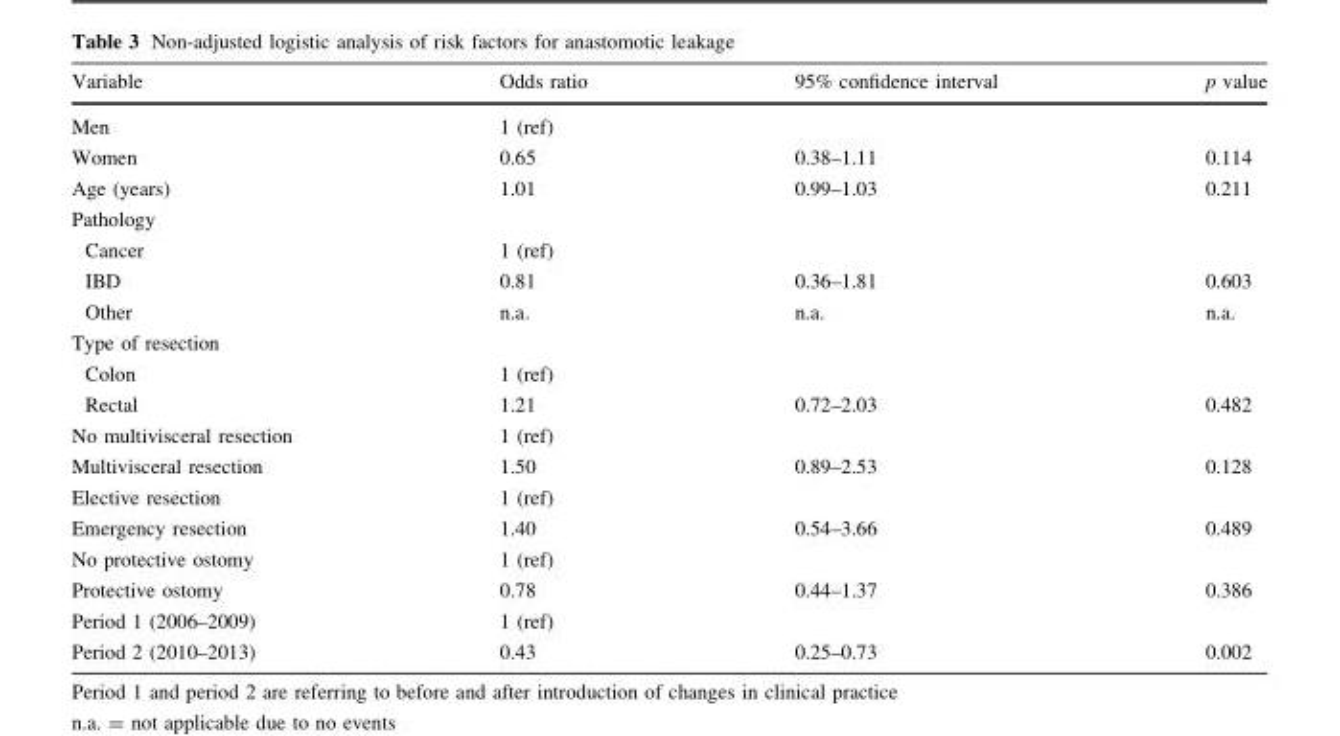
<table><thead><tr><td>Variable</td><td>Odds ratio</td><td>95% confidence interval</td><td>p value</td></tr></thead><tbody><tr><td>Men</td><td>1 (ref)</td><td></td><td></td></tr><tr><td>Women</td><td>0.65</td><td>0.38–1.11</td><td>0.114</td></tr><tr><td>Age (years)</td><td>1.01</td><td>0.99–1.03</td><td>0.211</td></tr><tr><td colspan="4">Pathology</td></tr><tr><td>Cancer</td><td>1 (ref)</td><td></td><td></td></tr><tr><td>IBD</td><td>0.81</td><td>0.36–1.81</td><td>0.603</td></tr><tr><td>Other</td><td>n.a.</td><td>n.a.</td><td>n.a.</td></tr><tr><td colspan="4">Type of resection</td></tr><tr><td>Colon</td><td>1 (ref)</td><td></td><td></td></tr><tr><td>Rectal</td><td>1.21</td><td>0.72–2.03</td><td>0.482</td></tr><tr><td>No multivisceral resection</td><td>1 (ref)</td><td></td><td></td></tr><tr><td>Multivisceral resection</td><td>1.50</td><td>0.89–2.53</td><td>0.128</td></tr><tr><td>Elective resection</td><td>1 (ref)</td><td></td><td></td></tr><tr><td>Emergency resection</td><td>1.40</td><td>0.54–3.66</td><td>0.489</td></tr><tr><td>No protective ostomy</td><td>1 (ref)</td><td></td><td></td></tr><tr><td>Protective ostomy</td><td>0.78</td><td>0.44–1.37</td><td>0.386</td></tr><tr><td>Period 1 (2006–2009)</td><td>1 (ref)</td><td></td><td></td></tr><tr><td>Period 2 (2010–2013)</td><td>0.43</td><td>0.25–0.73</td><td>0.002</td></tr></tbody></table>